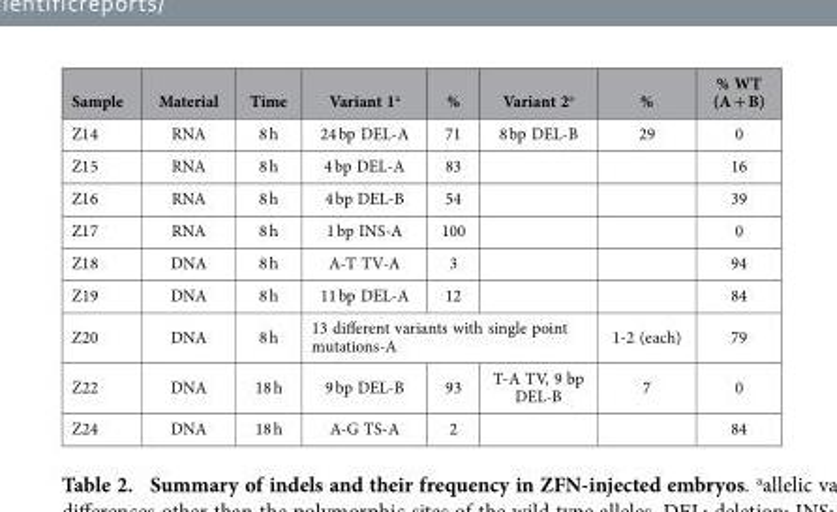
<table><thead><tr><td>Sample</td><td>Material</td><td>Time</td><td>Variant 1<sup>a</sup></td><td>%</td><td>Variant 2a</td><td>%</td><td>% WT (A + B)</td></tr></thead><tbody><tr><td>Z14</td><td>RNA</td><td>8 h</td><td>24 bp DEL-A</td><td>71</td><td>8 bp DEL-B</td><td>29</td><td>0</td></tr><tr><td>Z15</td><td>RNA</td><td>8 h</td><td>4 bp DEL-A</td><td>83</td><td></td><td></td><td>16</td></tr><tr><td>Z16</td><td>RNA</td><td>8 h</td><td>4 bp DEL-B</td><td>54</td><td></td><td></td><td>39</td></tr><tr><td>Z17</td><td>RNA</td><td>8 h</td><td>1 bp INS-A</td><td>100</td><td></td><td></td><td>0</td></tr><tr><td>Z18</td><td>DNA</td><td>8 h</td><td>A-T TV-A</td><td>3</td><td></td><td></td><td>94</td></tr><tr><td>Z19</td><td>DNA</td><td>8 h</td><td>11 bp DEL-A</td><td>12</td><td></td><td></td><td>84</td></tr><tr><td>Z20</td><td>DNA</td><td>8 h</td><td colspan="3">13 different variants with single point mutations-A</td><td>1-2 (each)</td><td>79</td></tr><tr><td>Z22</td><td>DNA</td><td>18 h</td><td>9 bp DEL-B</td><td>93</td><td>T-A TV, 9 bp DEL-B</td><td>7</td><td>0</td></tr><tr><td>Z24</td><td>DNA</td><td>18 h</td><td>A-G TS-A</td><td>2</td><td></td><td></td><td>84</td></tr></tbody></table>